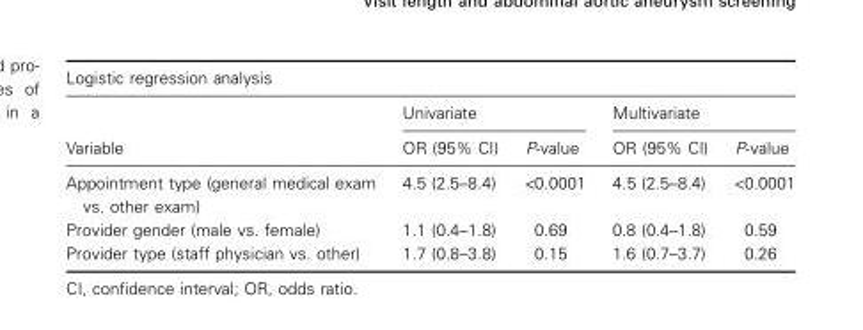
<table><thead><tr><td colspan="5">Logistic regression analysis</td></tr><tr><td rowspan="2">Variable</td><td colspan="2">Univariate</td><td colspan="2">Multivariate</td></tr><tr><td>OR (95% CI)</td><td>P-value</td><td>OR (95% CI)</td><td>P-value</td></tr></thead><tbody><tr><td>Appointment type (general medical exam vs. other exam)</td><td>4.5 (2.5–8.4)</td><td>&lt;0.0001</td><td>4.5 (2.5–8.4)</td><td>&lt;0.0001</td></tr><tr><td>Provider gender (male vs. female)</td><td>1.1 (0.4–1.8)</td><td>0.69</td><td>0.8 (0.4–1.8)</td><td>0.59</td></tr><tr><td>Provider type (staff physician vs. other)</td><td>1.7 (0.8–3.8)</td><td>0.15</td><td>1.6 (0.7–3.7)</td><td>0.26</td></tr></tbody></table>